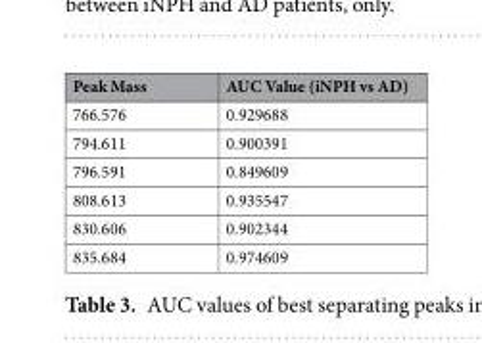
<table><thead><tr><td>Peak Mass</td><td>AUC Value (iNPH vs AD)</td></tr></thead><tbody><tr><td>766.576</td><td>0.929688</td></tr><tr><td>794.611</td><td>0.900391</td></tr><tr><td>796.591</td><td>0.849609</td></tr><tr><td>808.613</td><td>0.935547</td></tr><tr><td>830.606</td><td>0.902344</td></tr><tr><td>835.684</td><td>0.974609</td></tr></tbody></table>